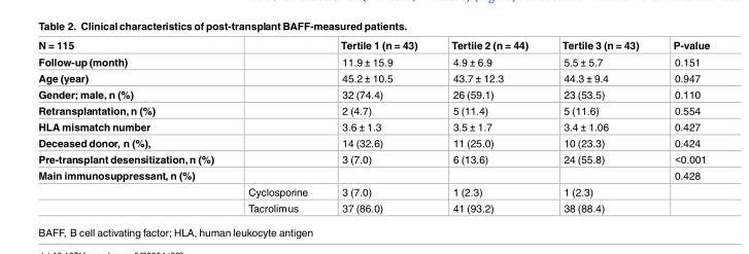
<table><thead><tr><td>N = 115</td><td></td><td>Tertile 1 (n = 43)</td><td>Tertile 2 (n = 44)</td><td>Tertile 3 (n = 43)</td><td>P-value</td></tr></thead><tbody><tr><td>Follow-up (month)</td><td></td><td>11.9 ± 15.9</td><td>4.9 ± 6.9</td><td>5.5 ± 5.7</td><td>0.151</td></tr><tr><td>Age (year)</td><td></td><td>45.2 ± 10.5</td><td>43.7 ± 12.3</td><td>44.3 ± 9.4</td><td>0.947</td></tr><tr><td>Gender; male, n (%)</td><td></td><td>32 (74.4)</td><td>26 (59.1)</td><td>23 (53.5)</td><td>0.110</td></tr><tr><td>Retransplantation, n (%)</td><td></td><td>2 (4.7)</td><td>5 (11.4)</td><td>5 (11.6)</td><td>0.554</td></tr><tr><td>HLA mismatch number</td><td></td><td>3.6 ± 1.3</td><td>3.5 ± 1.7</td><td>3.4 ± 1.06</td><td>0.427</td></tr><tr><td>Deceased donor, n (%),</td><td></td><td>14 (32.6)</td><td>11 (25.0)</td><td>10 (23.3)</td><td>0.424</td></tr><tr><td>Pre-transplant desensitization, n (%)</td><td></td><td>3 (7.0)</td><td>6 (13.6)</td><td>24 (55.8)</td><td>&lt;0.001</td></tr><tr><td rowspan="3">Main immunosuppressant, n (%)</td><td></td><td></td><td></td><td></td><td>0.428</td></tr><tr><td>Cyclosporine</td><td>3 (7.0)</td><td>1 (2.3)</td><td>1 (2.3)</td><td></td></tr><tr><td>Tacrolimus</td><td>37 (86.0)</td><td>41 (93.2)</td><td>38 (88.4)</td><td></td></tr></tbody></table>